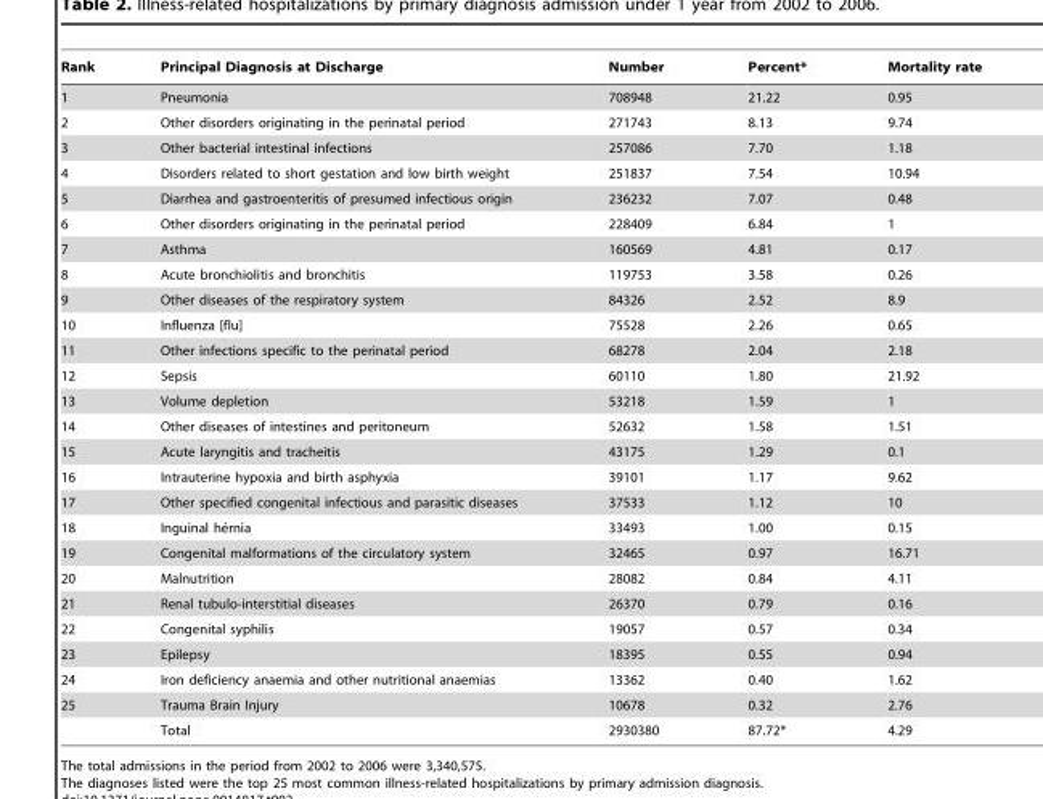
<table><thead><tr><td>Rank</td><td>Principal Diagnosis at Discharge</td><td>Number</td><td>Percent*</td><td>Mortality rate</td></tr></thead><tbody><tr><td>1</td><td>Pneumonia</td><td>708948</td><td>21.22</td><td>0.95</td></tr><tr><td>2</td><td>Other disorders originating in the perinatal period</td><td>271743</td><td>8.13</td><td>9.74</td></tr><tr><td>3</td><td>Other bacterial intestinal infections</td><td>257086</td><td>7.70</td><td>1.18</td></tr><tr><td>4</td><td>Disorders related to short gestation and low birth weight</td><td>251837</td><td>7.54</td><td>10.94</td></tr><tr><td>5</td><td>Diarrhea and gastroenteritis of presumed infectious origin</td><td>236232</td><td>7.07</td><td>0.48</td></tr><tr><td>6</td><td>Other disorders originating in the perinatal period</td><td>228409</td><td>6.84</td><td>1</td></tr><tr><td>7</td><td>Asthma</td><td>160569</td><td>4.81</td><td>0.17</td></tr><tr><td>8</td><td>Acute bronchiolitis and bronchitis</td><td>119753</td><td>3.58</td><td>0.26</td></tr><tr><td>9</td><td>Other diseases of the respiratory system</td><td>84326</td><td>2.52</td><td>8.9</td></tr><tr><td>10</td><td>Influenza [flu]</td><td>75528</td><td>2.26</td><td>0.65</td></tr><tr><td>11</td><td>Other infections specific to the perinatal period</td><td>68278</td><td>2.04</td><td>2.18</td></tr><tr><td>12</td><td>Sepsis</td><td>60110</td><td>1.80</td><td>21.92</td></tr><tr><td>13</td><td>Volume depletion</td><td>53218</td><td>1.59</td><td>1</td></tr><tr><td>14</td><td>Other diseases of intestines and peritoneum</td><td>52632</td><td>1.58</td><td>1.51</td></tr><tr><td>15</td><td>Acute laryngitis and tracheitis</td><td>43175</td><td>1.29</td><td>0.1</td></tr><tr><td>16</td><td>Intrauterine hypoxia and birth asphyxia</td><td>39101</td><td>1.17</td><td>9.62</td></tr><tr><td>17</td><td>Other specified congenital infectious and parasitic diseases</td><td>37533</td><td>1.12</td><td>10</td></tr><tr><td>18</td><td>Inguinal he´rnia</td><td>33493</td><td>1.00</td><td>0.15</td></tr><tr><td>19</td><td>Congenital malformations of the circulatory system</td><td>32465</td><td>0.97</td><td>16.71</td></tr><tr><td>20</td><td>Malnutrition</td><td>28082</td><td>0.84</td><td>4.11</td></tr><tr><td>21</td><td>Renal tubulo-interstitial diseases</td><td>26370</td><td>0.79</td><td>0.16</td></tr><tr><td>22</td><td>Congenital syphilis</td><td>19057</td><td>0.57</td><td>0.34</td></tr><tr><td>23</td><td>Epilepsy</td><td>18395</td><td>0.55</td><td>0.94</td></tr><tr><td>24</td><td>Iron deficiency anaemia and other nutritional anaemias</td><td>13362</td><td>0.40</td><td>1.62</td></tr><tr><td rowspan="2">25</td><td>Trauma Brain Injury</td><td>10678</td><td>0.32</td><td>2.76</td></tr><tr><td>Total</td><td>2930380</td><td>87.72*</td><td>4.29</td></tr></tbody></table>